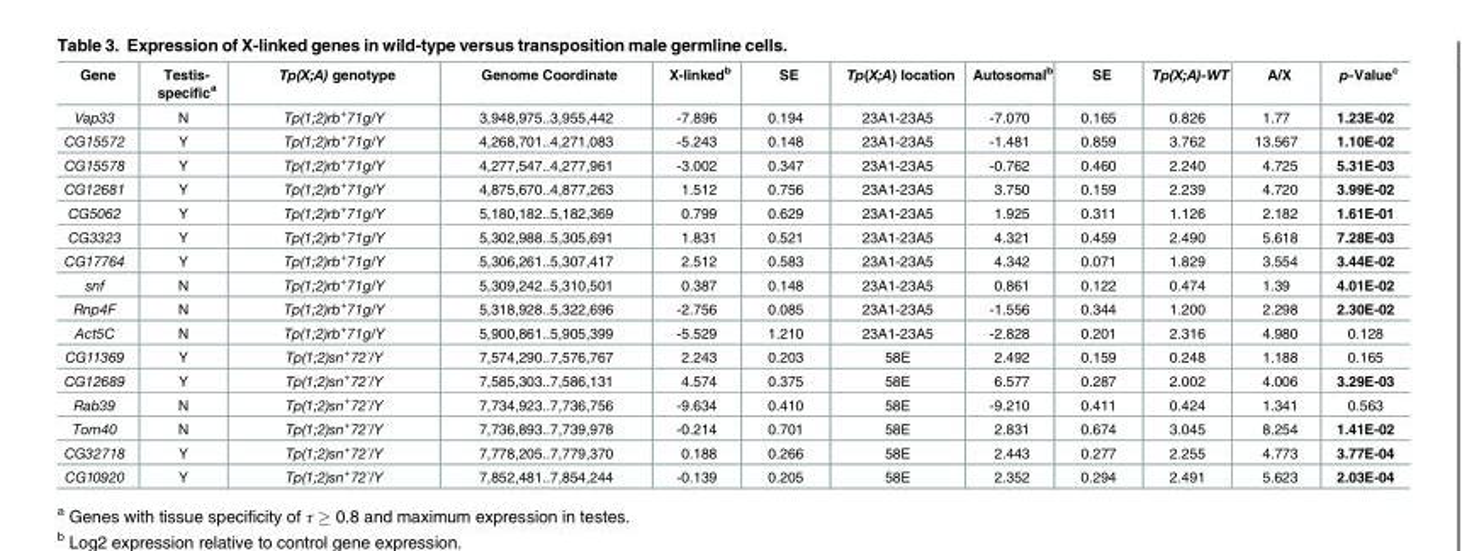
<table><thead><tr><td>Gene</td><td>Testis- specific<sup>a</sup></td><td>Tp(X;A) genotype</td><td>Genome Coordinate</td><td>X-linked<sup>b</sup></td><td>SE</td><td>Tp(X;A) location</td><td>Autosomal<sup>b</sup></td><td>SE</td><td>Tp(X;A)-WT</td><td>A/X</td><td>p-Value<sup>c</sup></td></tr></thead><tbody><tr><td>Vap33</td><td>N</td><td>Tp(1;2)rb<sup>+</sup>71g/Y</td><td>3,948,975..3,955,442</td><td>-7.896</td><td>0.194</td><td>23A1-23A5</td><td>-7.070</td><td>0.165</td><td>0.826</td><td>1.77</td><td>1.23E-02</td></tr><tr><td>CG15572</td><td>Y</td><td>Tp(1;2)rb<sup>+</sup>71g/Y</td><td>4,268,701..4,271,083</td><td>-5.243</td><td>0.148</td><td>23A1-23A5</td><td>-1.481</td><td>0.859</td><td>3.762</td><td>13.567</td><td>1.10E-02</td></tr><tr><td>CG15578</td><td>Y</td><td>Tp(1;2)rb<sup>+</sup>71g/Y</td><td>4,277,547..4,277,961</td><td>-3.002</td><td>0.347</td><td>23A1-23A5</td><td>-0.762</td><td>0.460</td><td>2.240</td><td>4.725</td><td>5.31E-03</td></tr><tr><td>CG12681</td><td>Y</td><td>Tp(1;2)rb<sup>+</sup>71g/Y</td><td>4,875,670..4,877,263</td><td>1.512</td><td>0.756</td><td>23A1-23A5</td><td>3.750</td><td>0.159</td><td>2.239</td><td>4.720</td><td>3.99E-02</td></tr><tr><td>CG5062</td><td>Y</td><td>Tp(1;2)rb<sup>+</sup>71g/Y</td><td>5,180,182..5,182,369</td><td>0.799</td><td>0.629</td><td>23A1-23A5</td><td>1.925</td><td>0.311</td><td>1.126</td><td>2.182</td><td>1.61E-01</td></tr><tr><td>CG3323</td><td>Y</td><td>Tp(1;2)rb<sup>+</sup>71g/Y</td><td>5,302,988..5,305,691</td><td>1.831</td><td>0.521</td><td>23A1-23A5</td><td>4.321</td><td>0.459</td><td>2.490</td><td>5.618</td><td>7.28E-03</td></tr><tr><td>CG17764</td><td>Y</td><td>Tp(1;2)rb<sup>+</sup>71g/Y</td><td>5,306,261..5,307,417</td><td>2.512</td><td>0.583</td><td>23A1-23A5</td><td>4.342</td><td>0.071</td><td>1.829</td><td>3.554</td><td>3.44E-02</td></tr><tr><td>snf</td><td>N</td><td>Tp(1;2)rb<sup>+</sup>71g/Y</td><td>5,309,242..5,310,501</td><td>0.387</td><td>0.148</td><td>23A1-23A5</td><td>0.861</td><td>0.122</td><td>0.474</td><td>1.39</td><td>4.01E-02</td></tr><tr><td>Rnp4F</td><td>N</td><td>Tp(1;2)rb<sup>+</sup>71g/Y</td><td>5,318,928..5,322,696</td><td>-2.756</td><td>0.085</td><td>23A1-23A5</td><td>-1.556</td><td>0.344</td><td>1.200</td><td>2.298</td><td>2.30E-02</td></tr><tr><td>Act5C</td><td>N</td><td>Tp(1;2)rb<sup>+</sup>71g/Y</td><td>5,900,861..5,905,399</td><td>-5.529</td><td>1.210</td><td>23A1-23A5</td><td>-2.828</td><td>0.201</td><td>2.316</td><td>4.980</td><td>0.128</td></tr><tr><td>CG11369</td><td>Y</td><td>Tp(1;2)sn<sup>+</sup>72`/Y</td><td>7,574,290..7,576,767</td><td>2.243</td><td>0.203</td><td>58E</td><td>2.492</td><td>0.159</td><td>0.248</td><td>1.188</td><td>0.165</td></tr><tr><td>CG12689</td><td>Y</td><td>Tp(1;2)sn<sup>+</sup>72`/Y</td><td>7,585,303..7,586,131</td><td>4.574</td><td>0.375</td><td>58E</td><td>6.577</td><td>0.287</td><td>2.002</td><td>4.006</td><td>3.29E-03</td></tr><tr><td>Rab39</td><td>N</td><td>Tp(1;2)sn<sup>+</sup>72`/Y</td><td>7,734,923..7,736,756</td><td>-9.634</td><td>0.410</td><td>58E</td><td>-9.210</td><td>0.411</td><td>0.424</td><td>1.341</td><td>0.563</td></tr><tr><td>Tom40</td><td>N</td><td>Tp(1;2)sn<sup>+</sup>72`/Y</td><td>7,736,893..7,739,978</td><td>-0.214</td><td>0.701</td><td>58E</td><td>2.831</td><td>0.674</td><td>3.045</td><td>8.254</td><td>1.41E-02</td></tr><tr><td>CG32718</td><td>Y</td><td>Tp(1;2)sn<sup>+</sup>72`/Y</td><td>7,778,205..7,779,370</td><td>0.188</td><td>0.266</td><td>58E</td><td>2.443</td><td>0.277</td><td>2.255</td><td>4.773</td><td>3.77E-04</td></tr><tr><td>CG10920</td><td>Y</td><td>Tp(1;2)sn<sup>+</sup>72`/Y</td><td>7,852,481..7,854,244</td><td>-0.139</td><td>0.205</td><td>58E</td><td>2.352</td><td>0.294</td><td>2.491</td><td>5.623</td><td>2.03E-04</td></tr></tbody></table>